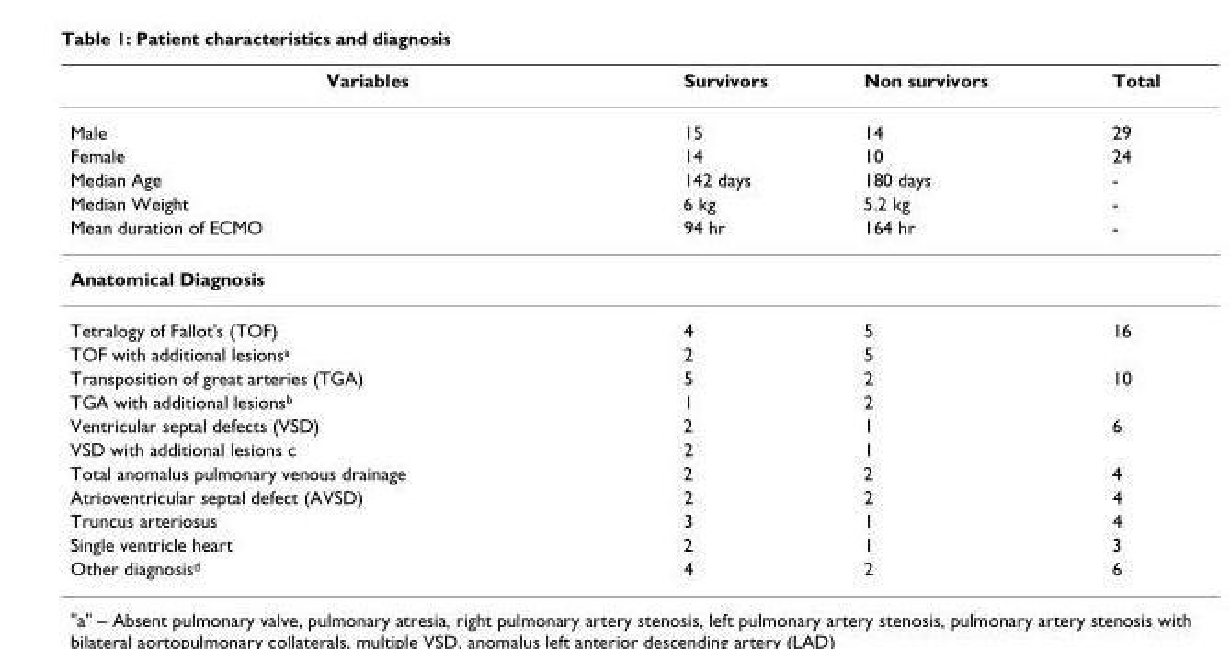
<table><thead><tr><td>Variables</td><td>Survivors</td><td>Non survivors</td><td>Total</td></tr></thead><tbody><tr><td>Male</td><td>15</td><td>14</td><td>29</td></tr><tr><td>Female</td><td>14</td><td>10</td><td>24</td></tr><tr><td>Median Age</td><td>142 days</td><td>180 days</td><td>-</td></tr><tr><td>Median Weight</td><td>6 kg</td><td>5.2 kg</td><td>-</td></tr><tr><td>Mean duration of ECMO</td><td>94 hr</td><td>164 hr</td><td>-</td></tr><tr><td colspan="4">Anatomical Diagnosis</td></tr><tr><td>Tetralogy of Fallot&#x27;s (TOF)</td><td>4</td><td>5</td><td>16</td></tr><tr><td>TOF with additional lesions<sup>a</sup></td><td>2</td><td>5</td><td></td></tr><tr><td>Transposition of great arteries (TGA)</td><td>5</td><td>2</td><td>10</td></tr><tr><td>TGA with additional lesions<sup>b</sup></td><td>1</td><td>2</td><td></td></tr><tr><td>Ventricular septal defects (VSD)</td><td>2</td><td>1</td><td>6</td></tr><tr><td>VSD with additional lesions c</td><td>2</td><td>1</td><td></td></tr><tr><td>Total anomalus pulmonary venous drainage</td><td>2</td><td>2</td><td>4</td></tr><tr><td>Atrioventricular septal defect (AVSD)</td><td>2</td><td>2</td><td>4</td></tr><tr><td>Truncus arteriosus</td><td>3</td><td>1</td><td>4</td></tr><tr><td>Single ventricle heart</td><td>2</td><td>1</td><td>3</td></tr><tr><td>Other diagnosis<sup>d</sup></td><td>4</td><td>2</td><td>6</td></tr></tbody></table>